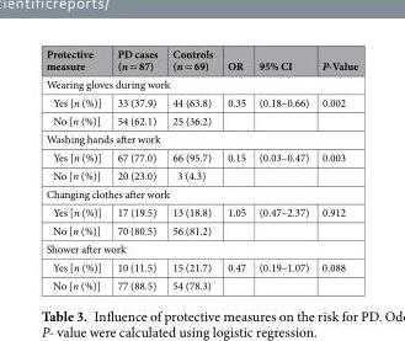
<table><thead><tr><td>Protective measure</td><td>PD cases (n = 87)</td><td>Controls (n = 69)</td><td>OR</td><td>95% CI</td><td>P-Value</td></tr></thead><tbody><tr><td colspan="6">Wearing gloves during work</td></tr><tr><td>Yes [n (%)]</td><td>33 (37.9)</td><td>44 (63.8)</td><td>0.35</td><td>(0.18–0.66)</td><td>0.002</td></tr><tr><td>No [n (%)]</td><td>54 (62.1)</td><td>25 (36.2)</td><td></td><td></td><td></td></tr><tr><td colspan="6">Washing hands after work</td></tr><tr><td>Yes [n (%)]</td><td>67 (77.0)</td><td>66 (95.7)</td><td>0.15</td><td>(0.03–0.47)</td><td>0.003</td></tr><tr><td>No [n (%)]</td><td>20 (23.0)</td><td>3 (4.3)</td><td></td><td></td><td></td></tr><tr><td colspan="6">Changing clothes after work</td></tr><tr><td>Yes [n (%)]</td><td>17 (19.5)</td><td>13 (18.8)</td><td>1.05</td><td>(0.47–2.37)</td><td>0.912</td></tr><tr><td>No [n (%)]</td><td>70 (80.5)</td><td>56 (81.2)</td><td></td><td></td><td></td></tr><tr><td colspan="6">Shower after work</td></tr><tr><td>Yes [n (%)]</td><td>10 (11.5)</td><td>15 (21.7)</td><td>0.47</td><td>(0.19–1.07)</td><td>0.088</td></tr><tr><td>No [n (%)]</td><td>77 (88.5)</td><td>54 (78.3)</td><td></td><td></td><td></td></tr></tbody></table>